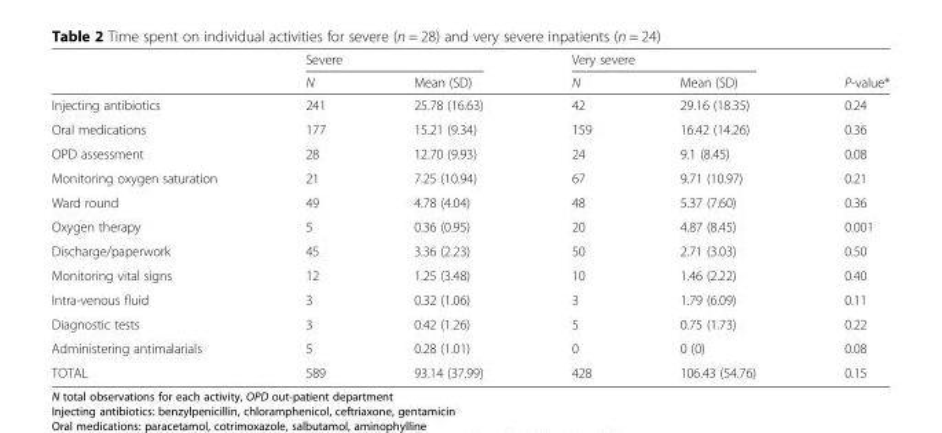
<table><thead><tr><td rowspan="2"></td><td colspan="2">Severe</td><td colspan="2">Very severe</td><td rowspan="2">P-value*</td></tr><tr><td>N</td><td>Mean (SD)</td><td>N</td><td>Mean (SD)</td></tr></thead><tbody><tr><td>Injecting antibiotics</td><td>241</td><td>25.78 (16.63)</td><td>42</td><td>29.16 (18.35)</td><td>0.24</td></tr><tr><td>Oral medications</td><td>177</td><td>15.21 (9.34)</td><td>159</td><td>16.42 (14.26)</td><td>0.36</td></tr><tr><td>OPD assessment</td><td>28</td><td>12.70 (9.93)</td><td>24</td><td>9.1 (8.45)</td><td>0.08</td></tr><tr><td>Monitoring oxygen saturation</td><td>21</td><td>7.25 (10.94)</td><td>67</td><td>9.71 (10.97)</td><td>0.21</td></tr><tr><td>Ward round</td><td>49</td><td>4.78 (4.04)</td><td>48</td><td>5.37 (7.60)</td><td>0.36</td></tr><tr><td>Oxygen therapy</td><td>5</td><td>0.36 (0.95)</td><td>20</td><td>4.87 (8.45)</td><td>0.001</td></tr><tr><td>Discharge/paperwork</td><td>45</td><td>3.36 (2.23)</td><td>50</td><td>2.71 (3.03)</td><td>0.50</td></tr><tr><td>Monitoring vital signs</td><td>12</td><td>1.25 (3.48)</td><td>10</td><td>1.46 (2.22)</td><td>0.40</td></tr><tr><td>Intra-venous fluid</td><td>3</td><td>0.32 (1.06)</td><td>3</td><td>1.79 (6.09)</td><td>0.11</td></tr><tr><td>Diagnostic tests</td><td>3</td><td>0.42 (1.26)</td><td>5</td><td>0.75 (1.73)</td><td>0.22</td></tr><tr><td>Administering antimalarials</td><td>5</td><td>0.28 (1.01)</td><td>0</td><td>0 (0)</td><td>0.08</td></tr><tr><td>TOTAL</td><td>589</td><td>93.14 (37.99)</td><td>428</td><td>106.43 (54.76)</td><td>0.15</td></tr></tbody></table>